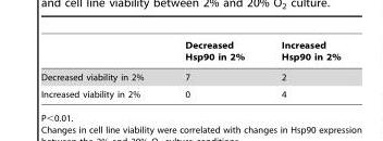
<table><thead><tr><td></td><td>Decreased Hsp90 in 2%</td><td>Increased Hsp90 in 2%</td></tr></thead><tbody><tr><td>Decreased viability in 2%</td><td>7</td><td>2</td></tr><tr><td>Increased viability in 2%</td><td>0</td><td>4</td></tr></tbody></table>